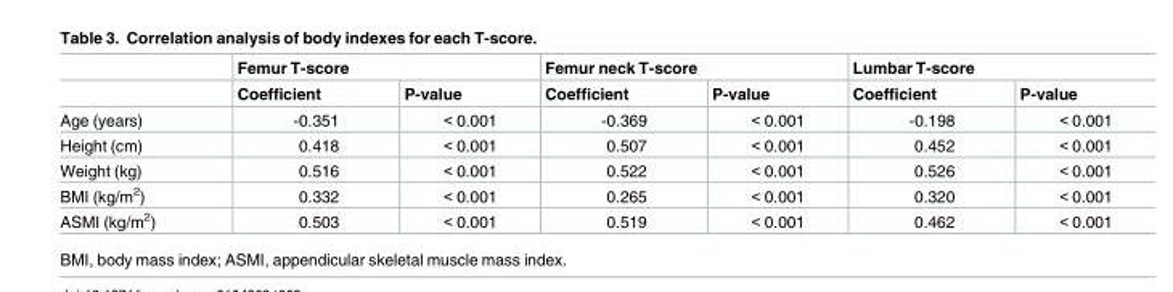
<table><thead><tr><td rowspan="2"></td><td colspan="2">Femur T-score</td><td colspan="2">Femur neck T-score</td><td colspan="2">Lumbar T-score</td></tr><tr><td>Coefficient</td><td>P-value</td><td>Coefficient</td><td>P-value</td><td>Coefficient</td><td>P-value</td></tr></thead><tbody><tr><td>Age (years)</td><td>-0.351</td><td>&lt; 0.001</td><td>-0.369</td><td>&lt; 0.001</td><td>-0.198</td><td>&lt; 0.001</td></tr><tr><td>Height (cm)</td><td>0.418</td><td>&lt; 0.001</td><td>0.507</td><td>&lt; 0.001</td><td>0.452</td><td>&lt; 0.001</td></tr><tr><td>Weight (kg)</td><td>0.516</td><td>&lt; 0.001</td><td>0.522</td><td>&lt; 0.001</td><td>0.526</td><td>&lt; 0.001</td></tr><tr><td>BMI (kg/m<sup>2</sup>)</td><td>0.332</td><td>&lt; 0.001</td><td>0.265</td><td>&lt; 0.001</td><td>0.320</td><td>&lt; 0.001</td></tr><tr><td>ASMI (kg/m<sup>2</sup>)</td><td>0.503</td><td>&lt; 0.001</td><td>0.519</td><td>&lt; 0.001</td><td>0.462</td><td>&lt; 0.001</td></tr></tbody></table>